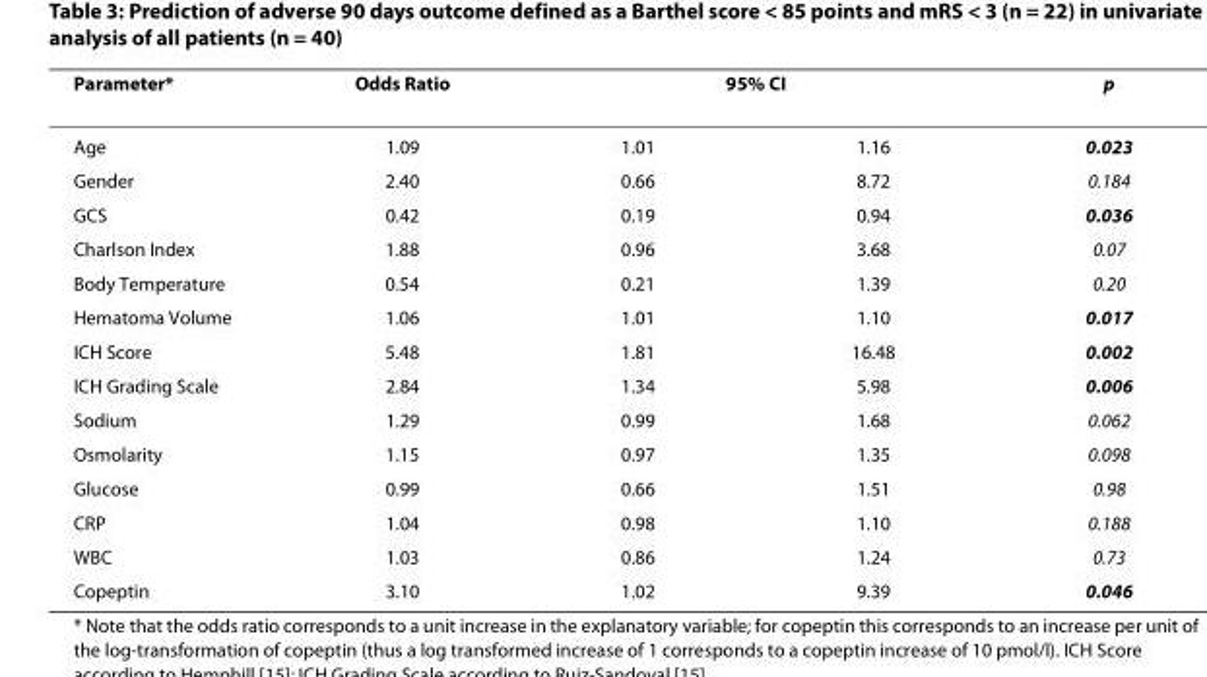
<table><thead><tr><td rowspan="2">Parameter* Age</td><td rowspan="2">Odds Ratio 1.09</td><td colspan="2">95% CI</td><td rowspan="2">p 0.023</td></tr><tr><td>1.01</td><td>1.16</td></tr></thead><tbody><tr><td>Gender</td><td>2.40</td><td>0.66</td><td>8.72</td><td>0.184</td></tr><tr><td>GCS</td><td>0.42</td><td>0.19</td><td>0.94</td><td>0.036</td></tr><tr><td>Charlson Index</td><td>1.88</td><td>0.96</td><td>3.68</td><td>0.07</td></tr><tr><td>Body Temperature</td><td>0.54</td><td>0.21</td><td>1.39</td><td>0.20</td></tr><tr><td>Hematoma Volume</td><td>1.06</td><td>1.01</td><td>1.10</td><td>0.017</td></tr><tr><td>ICH Score</td><td>5.48</td><td>1.81</td><td>16.48</td><td>0.002</td></tr><tr><td>ICH Grading Scale</td><td>2.84</td><td>1.34</td><td>5.98</td><td>0.006</td></tr><tr><td>Sodium</td><td>1.29</td><td>0.99</td><td>1.68</td><td>0.062</td></tr><tr><td>Osmolarity</td><td>1.15</td><td>0.97</td><td>1.35</td><td>0.098</td></tr><tr><td>Glucose</td><td>0.99</td><td>0.66</td><td>1.51</td><td>0.98</td></tr><tr><td>CRP</td><td>1.04</td><td>0.98</td><td>1.10</td><td>0.188</td></tr><tr><td>WBC</td><td>1.03</td><td>0.86</td><td>1.24</td><td>0.73</td></tr><tr><td>Copeptin</td><td>3.10</td><td>1.02</td><td>9.39</td><td>0.046</td></tr></tbody></table>